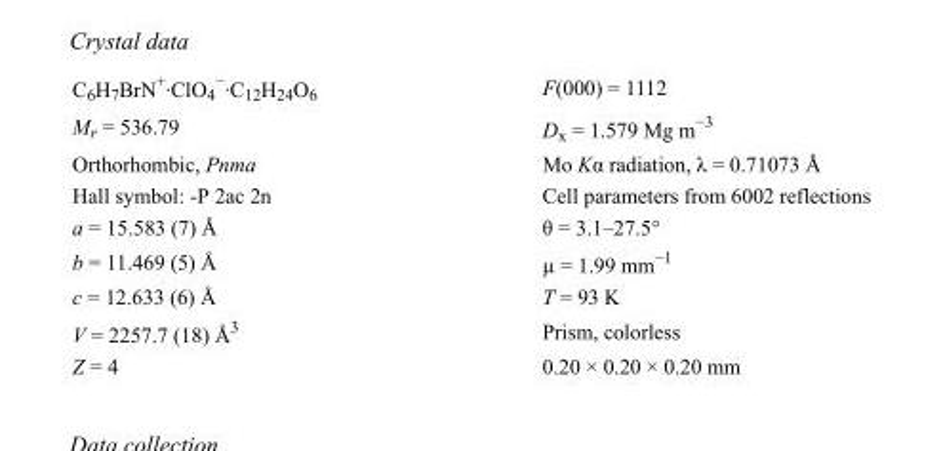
<table><tbody><tr><td>C<sub>6</sub>H<sub>7</sub>BrN<sup>+</sup>·ClO<sub>4</sub> <sup>−</sup>·C<sub>12</sub>H<sub>24</sub>O<sub>6</sub></td><td>F(000) = 1112</td></tr><tr><td>M<sub>r</sub> = 536.79</td><td>D<sub>x</sub> = 1.579 Mg m<sup>−3</sup></td></tr><tr><td>Orthorhombic, Pnma</td><td>Mo Kα radiation, λ = 0.71073 Å</td></tr><tr><td>Hall symbol: -P 2ac 2n</td><td>Cell parameters from 6002 reflections</td></tr><tr><td>a = 15.583 (7) Å</td><td>θ = 3.1–27.5°</td></tr><tr><td>b = 11.469 (5) Å</td><td>µ = 1.99 mm<sup>−1</sup></td></tr><tr><td>c = 12.633 (6) Å</td><td>T = 93 K</td></tr><tr><td>V = 2257.7 (18) Å<sup>3</sup></td><td>Prism, colorless</td></tr><tr><td>Z = 4</td><td>0.20 × 0.20 × 0.20 mm</td></tr></tbody></table>